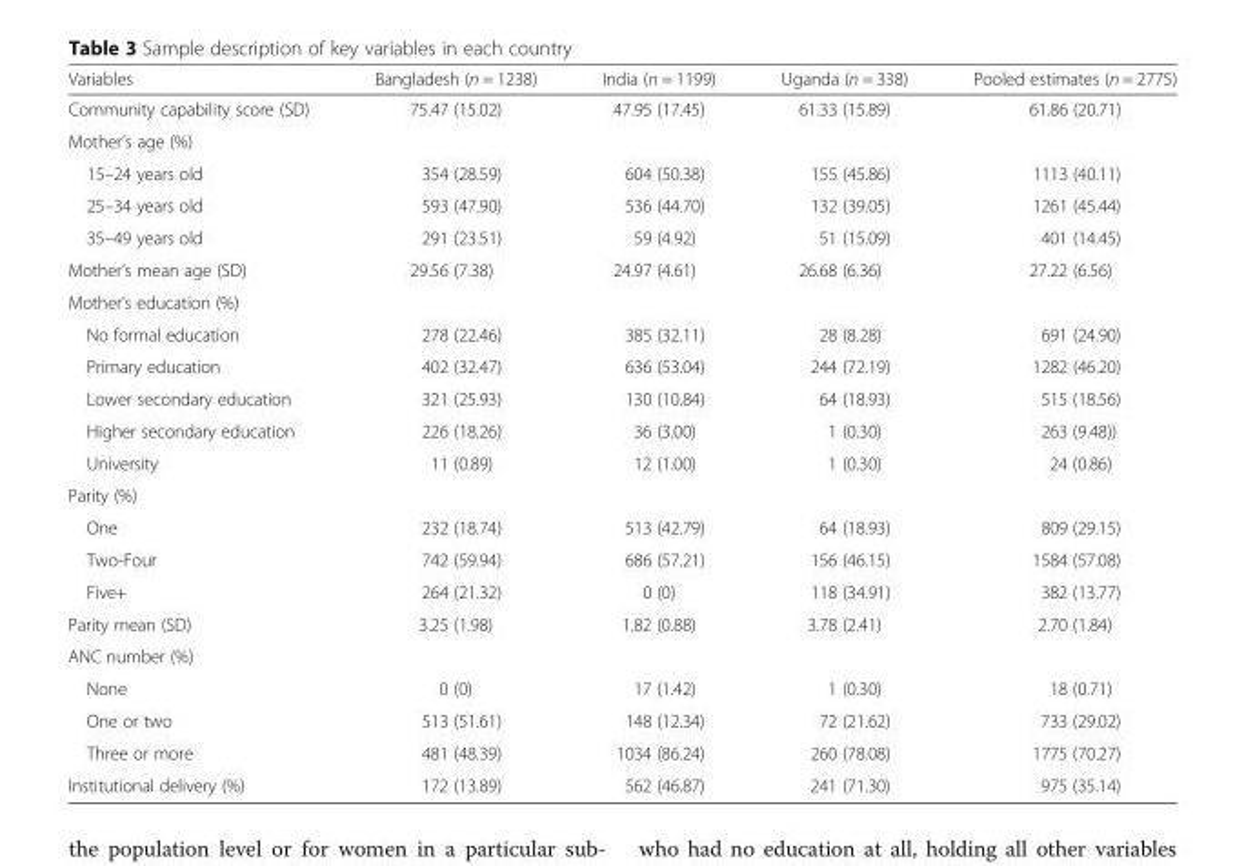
<table><thead><tr><td>Variables</td><td>Bangladesh (n = 1238)</td><td>India (n = 1199)</td><td>Uganda (n = 338)</td><td>Pooled estimates (n = 2775)</td></tr></thead><tbody><tr><td>Community capability score (SD)</td><td>75.47 (15.02)</td><td>47.95 (17.45)</td><td>61.33 (15.89)</td><td>61.86 (20.71)</td></tr><tr><td colspan="5">Mother’s age (%)</td></tr><tr><td>15–24 years old</td><td>354 (28.59)</td><td>604 (50.38)</td><td>155 (45.86)</td><td>1113 (40.11)</td></tr><tr><td>25–34 years old</td><td>593 (47.90)</td><td>536 (44.70)</td><td>132 (39.05)</td><td>1261 (45.44)</td></tr><tr><td>35–49 years old</td><td>291 (23.51)</td><td>59 (4.92)</td><td>51 (15.09)</td><td>401 (14.45)</td></tr><tr><td>Mother’s mean age (SD)</td><td>29.56 (7.38)</td><td>24.97 (4.61)</td><td>26.68 (6.36)</td><td>27.22 (6.56)</td></tr><tr><td colspan="5">Mother’s education (%)</td></tr><tr><td>No formal education</td><td>278 (22.46)</td><td>385 (32.11)</td><td>28 (8.28)</td><td>691 (24.90)</td></tr><tr><td>Primary education</td><td>402 (32.47)</td><td>636 (53.04)</td><td>244 (72.19)</td><td>1282 (46.20)</td></tr><tr><td>Lower secondary education</td><td>321 (25.93)</td><td>130 (10.84)</td><td>64 (18.93)</td><td>515 (18.56)</td></tr><tr><td>Higher secondary education</td><td>226 (18.26)</td><td>36 (3.00)</td><td>1 (0.30)</td><td>263 (9.48))</td></tr><tr><td>University</td><td>11 (0.89)</td><td>12 (1.00)</td><td>1 (0.30)</td><td>24 (0.86)</td></tr><tr><td colspan="5">Parity (%)</td></tr><tr><td>One</td><td>232 (18.74)</td><td>513 (42.79)</td><td>64 (18.93)</td><td>809 (29.15)</td></tr><tr><td>Two-Four</td><td>742 (59.94)</td><td>686 (57.21)</td><td>156 (46.15)</td><td>1584 (57.08)</td></tr><tr><td>Five+</td><td>264 (21.32)</td><td>0 (0)</td><td>118 (34.91)</td><td>382 (13.77)</td></tr><tr><td>Parity mean (SD)</td><td>3.25 (1.98)</td><td>1.82 (0.88)</td><td>3.78 (2.41)</td><td>2.70 (1.84)</td></tr><tr><td colspan="5">ANC number (%)</td></tr><tr><td>None</td><td>0 (0)</td><td>17 (1.42)</td><td>1 (0.30)</td><td>18 (0.71)</td></tr><tr><td>One or two</td><td>513 (51.61)</td><td>148 (12.34)</td><td>72 (21.62)</td><td>733 (29.02)</td></tr><tr><td>Three or more</td><td>481 (48.39)</td><td>1034 (86.24)</td><td>260 (78.08)</td><td>1775 (70.27)</td></tr><tr><td>Institutional delivery (%)</td><td>172 (13.89)</td><td>562 (46.87)</td><td>241 (71.30)</td><td>975 (35.14)</td></tr></tbody></table>